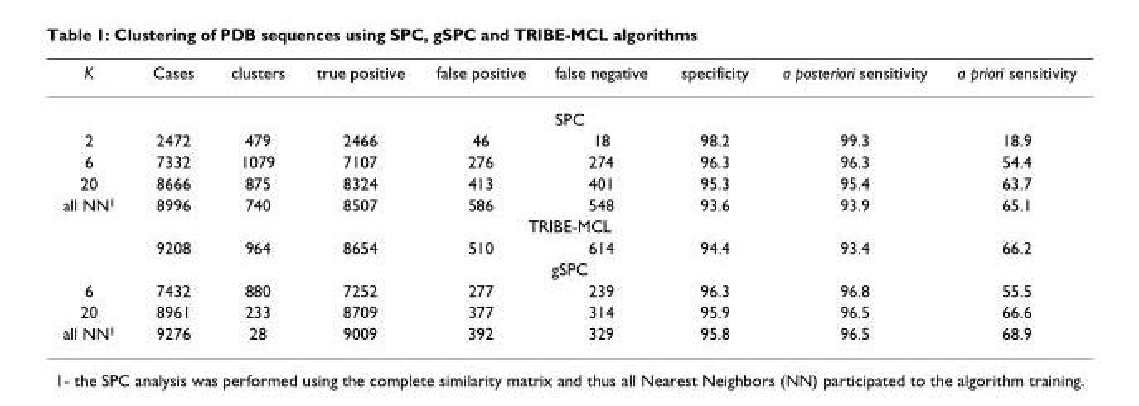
<table><thead><tr><td>K</td><td>Cases</td><td>clusters</td><td>true positive</td><td>false positive</td><td>false negative</td><td>specificity</td><td>a posteriori sensitivity</td><td>a priori sensitivity</td></tr></thead><tbody><tr><td colspan="9">SPC</td></tr><tr><td>2</td><td>2472</td><td>479</td><td>2466</td><td>46</td><td>18</td><td>98.2</td><td>99.3</td><td>18.9</td></tr><tr><td>6</td><td>7332</td><td>1079</td><td>7107</td><td>276</td><td>274</td><td>96.3</td><td>96.3</td><td>54.4</td></tr><tr><td>20</td><td>8666</td><td>875</td><td>8324</td><td>413</td><td>401</td><td>95.3</td><td>95.4</td><td>63.7</td></tr><tr><td>all NN1</td><td>8996</td><td>740</td><td>8507</td><td>586</td><td>548</td><td>93.6</td><td>93.9</td><td>65.1</td></tr><tr><td colspan="9">TRIBE-MCL</td></tr><tr><td></td><td>9208</td><td>964</td><td>8654</td><td>510</td><td>614</td><td>94.4</td><td>93.4</td><td>66.2</td></tr><tr><td colspan="9">gSPC</td></tr><tr><td>6</td><td>7432</td><td>880</td><td>7252</td><td>277</td><td>239</td><td>96.3</td><td>96.8</td><td>55.5</td></tr><tr><td>20</td><td>8961</td><td>233</td><td>8709</td><td>377</td><td>314</td><td>95.9</td><td>96.5</td><td>66.6</td></tr><tr><td>all NN1</td><td>9276</td><td>28</td><td>9009</td><td>392</td><td>329</td><td>95.8</td><td>96.5</td><td>68.9</td></tr></tbody></table>